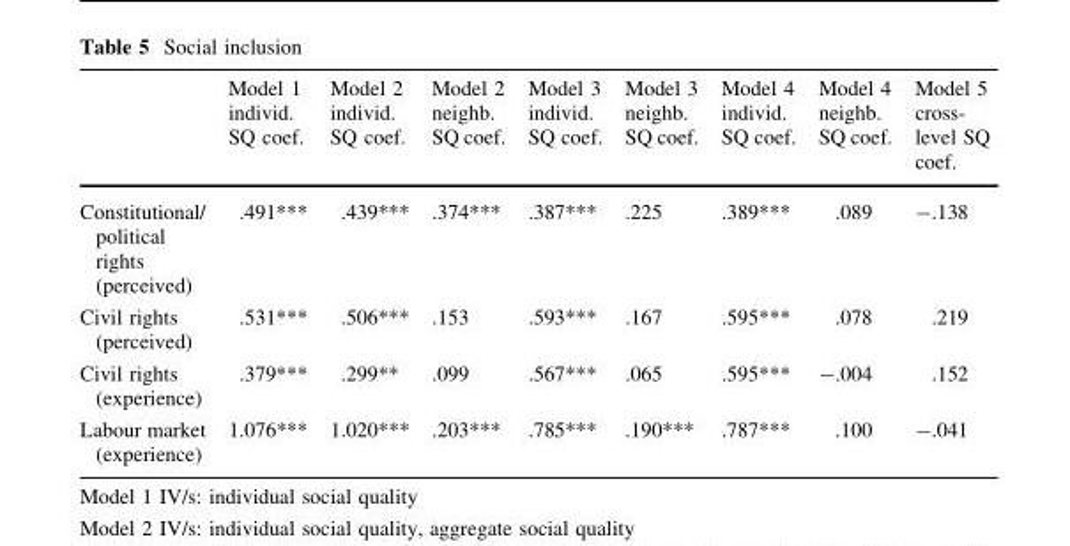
<table><thead><tr><td></td><td>Model 1 individ. SQ coef.</td><td>Model 2 individ. SQ coef.</td><td>Model 2 neighb. SQ coef.</td><td>Model 3 individ. SQ coef.</td><td>Model 3 neighb. SQ coef.</td><td>Model 4 individ. SQ coef.</td><td>Model 4 neighb. SQ coef.</td><td>Model 5 cross- level SQ coef.</td></tr></thead><tbody><tr><td>Constitutional/ political rights (perceived)</td><td>.491***</td><td>.439***</td><td>.374***</td><td>.387***</td><td>.225</td><td>.389***</td><td>.089</td><td>-.138</td></tr><tr><td>Civil rights (perceived)</td><td>.531***</td><td>.506***</td><td>.153</td><td>.593***</td><td>.167</td><td>.595***</td><td>.078</td><td>.219</td></tr><tr><td>Civil rights (experience)</td><td>.379***</td><td>.299**</td><td>.099</td><td>.567***</td><td>.065</td><td>.595***</td><td>-.004</td><td>.152</td></tr><tr><td>Labour market (experience)</td><td>1.076***</td><td>1.020***</td><td>.203***</td><td>.785***</td><td>.190***</td><td>.787***</td><td>.100</td><td>-.041</td></tr></tbody></table>